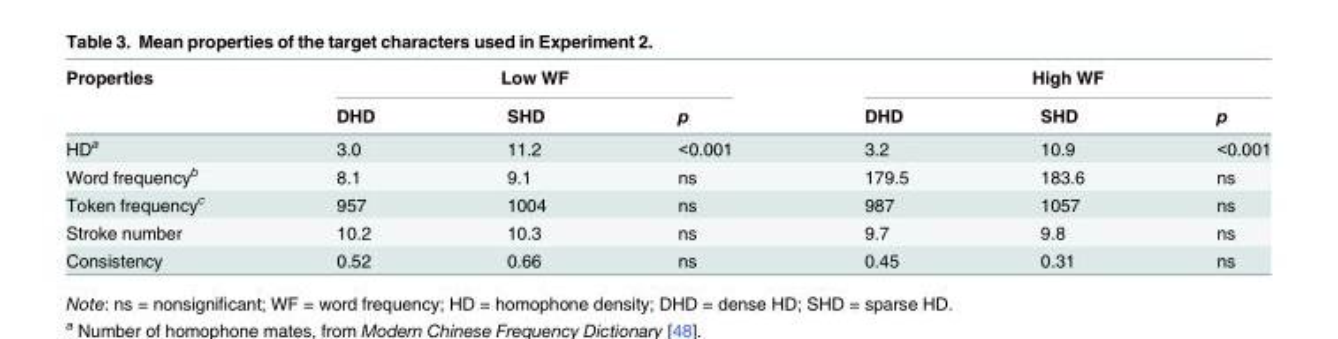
<table><thead><tr><td rowspan="2">Properties</td><td colspan="3">Low WF</td><td colspan="3">High WF</td></tr><tr><td>DHD</td><td>SHD</td><td>p</td><td>DHD</td><td>SHD</td><td>p</td></tr></thead><tbody><tr><td>HD<sup>a</sup></td><td>3.0</td><td>11.2</td><td>&lt;0.001</td><td>3.2</td><td>10.9</td><td>&lt;0.001</td></tr><tr><td>Word frequency<sup>b</sup></td><td>8.1</td><td>9.1</td><td>ns</td><td>179.5</td><td>183.6</td><td>ns</td></tr><tr><td>Token frequency<sup>c</sup></td><td>957</td><td>1004</td><td>ns</td><td>987</td><td>1057</td><td>ns</td></tr><tr><td>Stroke number</td><td>10.2</td><td>10.3</td><td>ns</td><td>9.7</td><td>9.8</td><td>ns</td></tr><tr><td>Consistency</td><td>0.52</td><td>0.66</td><td>ns</td><td>0.45</td><td>0.31</td><td>ns</td></tr></tbody></table>